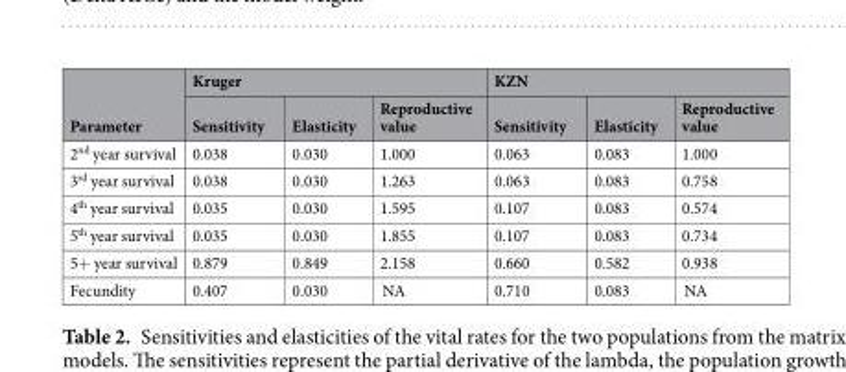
<table><thead><tr><td rowspan="2">Parameter</td><td colspan="3">Kruger</td><td colspan="3">KZN</td></tr><tr><td>Sensitivity</td><td>Elasticity</td><td>Reproductive value</td><td>Sensitivity</td><td>Elasticity</td><td>Reproductive value</td></tr></thead><tbody><tr><td>2<sup>nd</sup> year survival</td><td>0.038</td><td>0.030</td><td>1.000</td><td>0.063</td><td>0.083</td><td>1.000</td></tr><tr><td>3<sup>rd</sup> year survival</td><td>0.038</td><td>0.030</td><td>1.263</td><td>0.063</td><td>0.083</td><td>0.758</td></tr><tr><td>4<sup>th</sup> year survival</td><td>0.035</td><td>0.030</td><td>1.595</td><td>0.107</td><td>0.083</td><td>0.574</td></tr><tr><td>5<sup>th</sup> year survival</td><td>0.035</td><td>0.030</td><td>1.855</td><td>0.107</td><td>0.083</td><td>0.734</td></tr><tr><td>5+ year survival</td><td>0.879</td><td>0.849</td><td>2.158</td><td>0.660</td><td>0.582</td><td>0.938</td></tr><tr><td>Fecundity</td><td>0.407</td><td>0.030</td><td>NA</td><td>0.710</td><td>0.083</td><td>NA</td></tr></tbody></table>